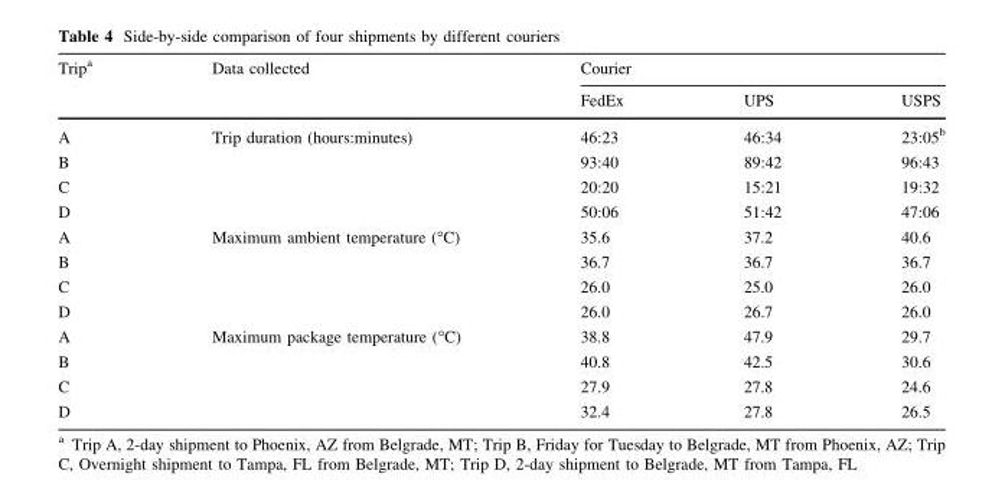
<table><thead><tr><td rowspan="2">Trip<sup>a</sup></td><td rowspan="2">Data collected</td><td colspan="3">Courier</td></tr><tr><td>FedEx</td><td>UPS</td><td>USPS</td></tr></thead><tbody><tr><td>A</td><td rowspan="4">Trip duration (hours:minutes)</td><td>46:23</td><td>46:34</td><td>23:05<sup>b</sup></td></tr><tr><td>B</td><td>93:40</td><td>89:42</td><td>96:43</td></tr><tr><td>C</td><td>20:20</td><td>15:21</td><td>19:32</td></tr><tr><td>D</td><td>50:06</td><td>51:42</td><td>47:06</td></tr><tr><td>A</td><td rowspan="4">Maximum ambient temperature (°C)</td><td>35.6</td><td>37.2</td><td>40.6</td></tr><tr><td>B</td><td>36.7</td><td>36.7</td><td>36.7</td></tr><tr><td>C</td><td>26.0</td><td>25.0</td><td>26.0</td></tr><tr><td>D</td><td>26.0</td><td>26.7</td><td>26.0</td></tr><tr><td>A</td><td rowspan="4">Maximum package temperature (°C)</td><td>38.8</td><td>47.9</td><td>29.7</td></tr><tr><td>B</td><td>40.8</td><td>42.5</td><td>30.6</td></tr><tr><td>C</td><td>27.9</td><td>27.8</td><td>24.6</td></tr><tr><td>D</td><td>32.4</td><td>27.8</td><td>26.5</td></tr></tbody></table>